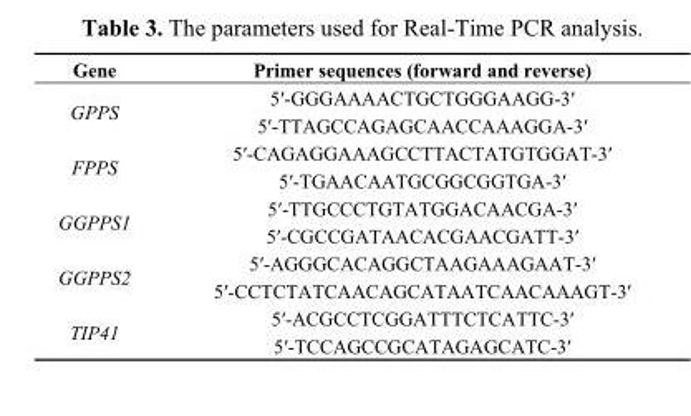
<table><thead><tr><td>Gene</td><td>Primer sequences (forward and reverse)</td></tr></thead><tbody><tr><td rowspan="2">GPPS</td><td>5′-GGGAAAACTGCTGGGAAGG-3′</td></tr><tr><td>5′-TTAGCCAGAGCAACCAAAGGA-3′</td></tr><tr><td rowspan="2">FPPS</td><td>5′-CAGAGGAAAGCCTTACTATGTGGAT-3′</td></tr><tr><td>5′-TGAACAATGCGGCGGTGA-3′</td></tr><tr><td rowspan="2">GGPPS1</td><td>5′-TTGCCCTGTATGGACAACGA-3′</td></tr><tr><td>5′-CGCCGATAACACGAACGATT-3′</td></tr><tr><td rowspan="2">GGPPS2</td><td>5′-AGGGCACAGGCTAAGAAAGAAT-3′</td></tr><tr><td>5′-CCTCTATCAACAGCATAATCAACAAAGT-3′</td></tr><tr><td rowspan="2">TIP41</td><td>5′-ACGCCTCGGATTTCTCATTC-3′</td></tr><tr><td>5′-TCCAGCCGCATAGAGCATC-3′</td></tr></tbody></table>